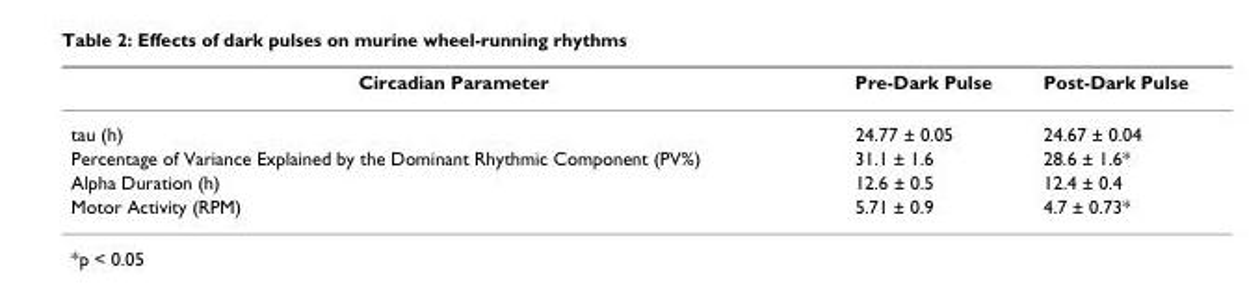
<table><thead><tr><td>Circadian Parameter</td><td>Pre-Dark Pulse</td><td>Post-Dark Pulse</td></tr></thead><tbody><tr><td>tau (h)</td><td>24.77 ± 0.05</td><td>24.67 ± 0.04</td></tr><tr><td>Percentage of Variance Explained by the Dominant Rhythmic Component (PV%)</td><td>31.1 ± 1.6</td><td>28.6 ± 1.6*</td></tr><tr><td>Alpha Duration (h)</td><td>12.6 ± 0.5</td><td>12.4 ± 0.4</td></tr><tr><td>Motor Activity (RPM)</td><td>5.71 ± 0.9</td><td>4.7 ± 0.73*</td></tr></tbody></table>